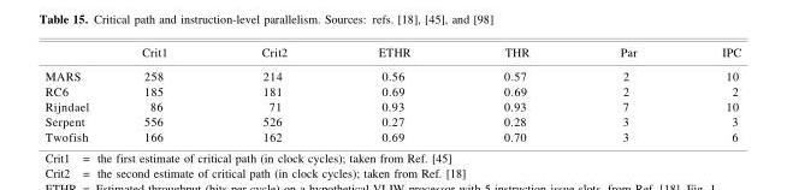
<table><thead><tr><td></td><td>Crit1</td><td>Crit2</td><td>ETHR</td><td>THR</td><td>Par</td><td>IPC</td></tr></thead><tbody><tr><td>MARS</td><td>258</td><td>214</td><td>0.56</td><td>0.57</td><td>2</td><td>10</td></tr><tr><td>RC6</td><td>185</td><td>181</td><td>0.69</td><td>0.69</td><td>2</td><td>2</td></tr><tr><td>Rijndael</td><td>86</td><td>71</td><td>0.93</td><td>0.93</td><td>7</td><td>10</td></tr><tr><td>Serpent</td><td>556</td><td>526</td><td>0.27</td><td>0.28</td><td>3</td><td>3</td></tr><tr><td>Twofish</td><td>166</td><td>162</td><td>0.69</td><td>0.70</td><td>3</td><td>6</td></tr></tbody></table>